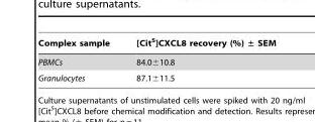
<table><thead><tr><td>Complex sample</td><td>[Cit<sup>5</sup>]CXCL8 recovery (%) ± SEM</td></tr></thead><tbody><tr><td>PBMCs</td><td>84.0±10.8</td></tr><tr><td>Granulocytes</td><td>87.1±11.5</td></tr></tbody></table>